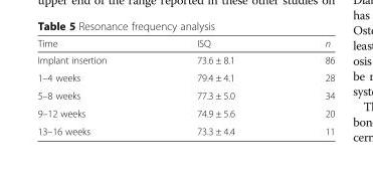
<table><thead><tr><td>Time</td><td>ISQ</td><td>n</td></tr></thead><tbody><tr><td>Implant insertion</td><td>73.6 ± 8.1</td><td>86</td></tr><tr><td>1–4 weeks</td><td>79.4 ± 4.1</td><td>28</td></tr><tr><td>5–8 weeks</td><td>77.3 ± 5.0</td><td>34</td></tr><tr><td>9–12 weeks</td><td>74.9 ± 5.6</td><td>20</td></tr><tr><td>13–16 weeks</td><td>73.3 ± 4.4</td><td>11</td></tr></tbody></table>